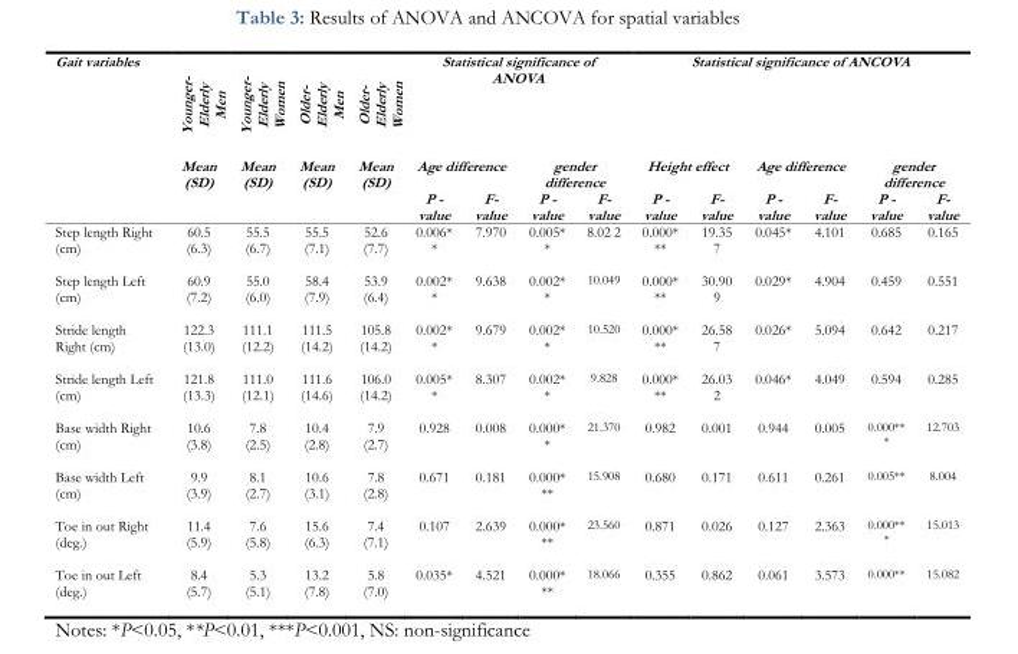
<table><thead><tr><td rowspan="3">Gait variables</td><td rowspan="3">Younger- Elderly Men Mean (SD)</td><td rowspan="3">Younger- Elderly Women Mean (SD)</td><td rowspan="3">Older- Elderly Men Mean (SD)</td><td rowspan="3">Older- Elderly Women Mean (SD)</td><td colspan="4">Statistical significance of ANOVA</td><td colspan="6">Statistical significance of ANCOVA</td></tr><tr><td colspan="2">Age difference</td><td colspan="2">gender difference</td><td colspan="2">Height effect</td><td colspan="2">Age difference</td><td colspan="2">gender difference</td></tr><tr><td>P - value</td><td>F- value</td><td>P - value</td><td>F- value</td><td>P - value</td><td>F- value</td><td>P - value</td><td>F- value</td><td>P - value</td><td>F- value</td></tr></thead><tbody><tr><td>Step length Right (cm)</td><td>60.5 (6.3)</td><td>55.5 (6.7)</td><td>55.5 (7.1)</td><td>52.6 (7.7)</td><td>0.006* *</td><td>7.970</td><td>0.005* *</td><td>8.02 2</td><td>0.000* **</td><td>19.35 7</td><td>0.045*</td><td>4.101</td><td>0.685</td><td>0.165</td></tr><tr><td>Step length Left (cm)</td><td>60.9 (7.2)</td><td>55.0 (6.0)</td><td>58.4 (7.9)</td><td>53.9 (6.4)</td><td>0.002* *</td><td>9.638</td><td>0.002* *</td><td>10.049</td><td>0.000* **</td><td>30.90 9</td><td>0.029*</td><td>4.904</td><td>0.459</td><td>0.551</td></tr><tr><td>Stride length Right (cm)</td><td>122.3 (13.0)</td><td>111.1 (12.2)</td><td>111.5 (14.2)</td><td>105.8 (14.2)</td><td>0.002* *</td><td>9.679</td><td>0.002* *</td><td>10.520</td><td>0.000* **</td><td>26.58 7</td><td>0.026*</td><td>5.094</td><td>0.642</td><td>0.217</td></tr><tr><td>Stride length Left (cm)</td><td>121.8 (13.3)</td><td>111.0 (12.1)</td><td>111.6 (14.6)</td><td>106.0 (14.2)</td><td>0.005* *</td><td>8.307</td><td>0.002* *</td><td>9.828</td><td>0.000* **</td><td>26.03 2</td><td>0.046*</td><td>4.049</td><td>0.594</td><td>0.285</td></tr><tr><td>Base width Right (cm)</td><td>10.6 (3.8)</td><td>7.8 (2.5)</td><td>10.4 (2.8)</td><td>7.9 (2.7)</td><td>0.928</td><td>0.008</td><td>0.000* *</td><td>21.370</td><td>0.982</td><td>0.001</td><td>0.944</td><td>0.005</td><td>0.000** *</td><td>12.703</td></tr><tr><td>Base width Left (cm)</td><td>9.9 (3.9)</td><td>8.1 (2.7)</td><td>10.6 (3.1)</td><td>7.8 (2.8)</td><td>0.671</td><td>0.181</td><td>0.000* **</td><td>15.908</td><td>0.680</td><td>0.171</td><td>0.611</td><td>0.261</td><td>0.005**</td><td>8.004</td></tr><tr><td>Toe in out Right (deg.)</td><td>11.4 (5.9)</td><td>7.6 (5.8)</td><td>15.6 (6.3)</td><td>7.4 (7.1)</td><td>0.107</td><td>2.639</td><td>0.000* **</td><td>23.560</td><td>0.871</td><td>0.026</td><td>0.127</td><td>2.363</td><td>0.000** *</td><td>15.013</td></tr><tr><td>Toe in out Left (deg.)</td><td>8.4 (5.7)</td><td>5.3 (5.1)</td><td>13.2 (7.8)</td><td>5.8 (7.0)</td><td>0.035*</td><td>4.521</td><td>0.000* **</td><td>18.066</td><td>0.355</td><td>0.862</td><td>0.061</td><td>3.573</td><td>0.000**</td><td>15.082</td></tr></tbody></table>